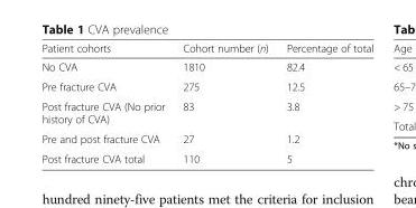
<table><thead><tr><td>Patient cohorts</td><td>Cohort number (n)</td><td>Percentage of total</td></tr></thead><tbody><tr><td>No CVA</td><td>1810</td><td>82.4</td></tr><tr><td>Pre fracture CVA</td><td>275</td><td>12.5</td></tr><tr><td>Post fracture CVA (No prior history of CVA)</td><td>83</td><td>3.8</td></tr><tr><td>Pre and post fracture CVA</td><td>27</td><td>1.2</td></tr><tr><td>Post fracture CVA total</td><td>110</td><td>5</td></tr></tbody></table>